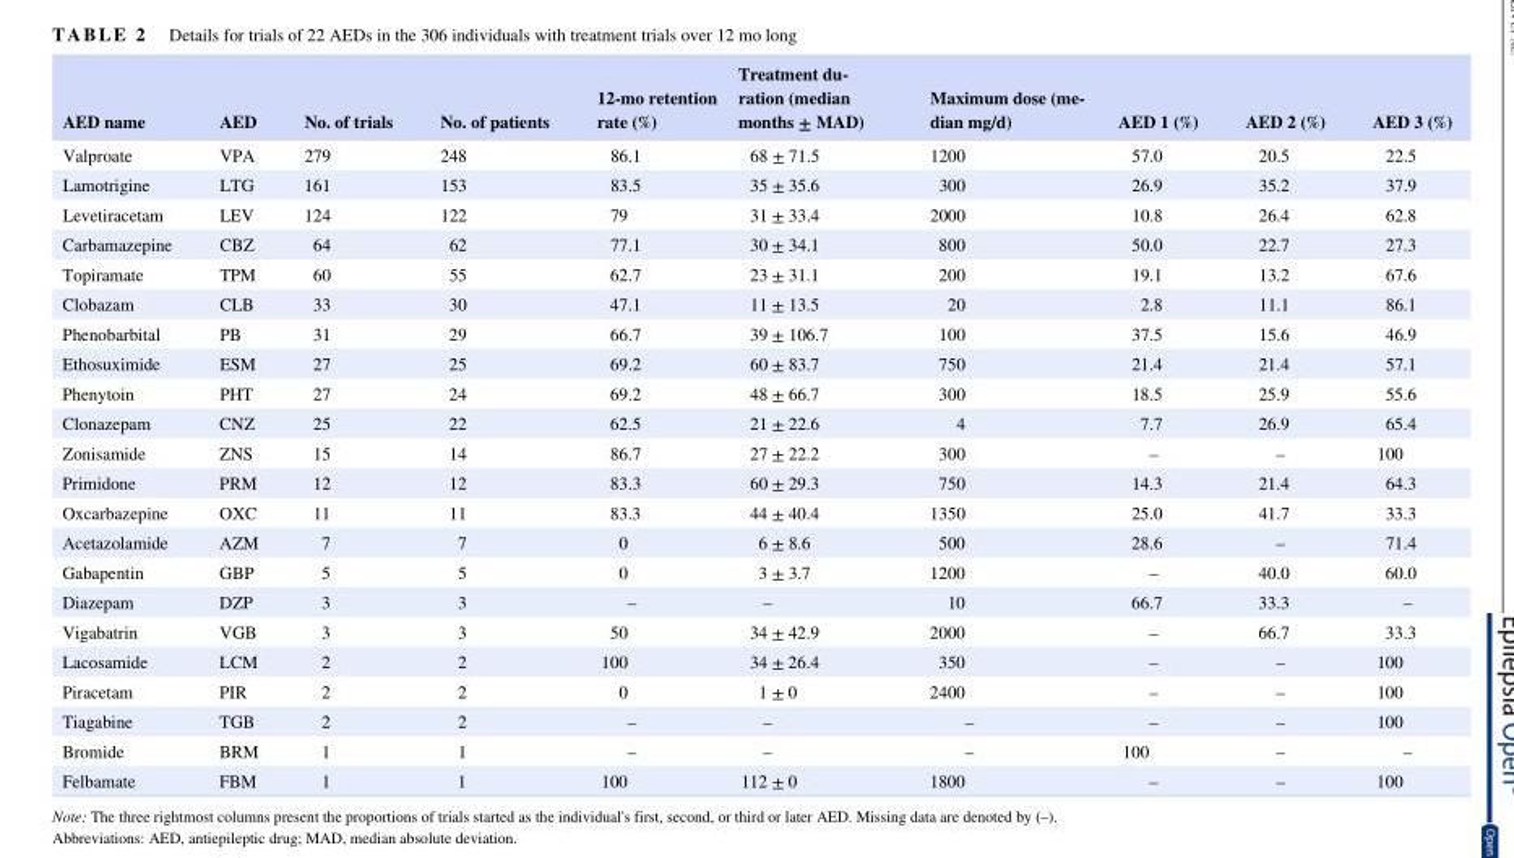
<table><thead><tr><td>AED name</td><td>AED</td><td>No. of trials</td><td>No. of patients</td><td>12‐mo retention rate (%)</td><td>Treatment du- ration (median months ± MAD)</td><td>Maximum dose (me- dian mg/d)</td><td>AED 1 (%)</td><td>AED 2 (%)</td><td>AED 3 (%)</td></tr></thead><tbody><tr><td>Valproate</td><td>VPA</td><td>279</td><td>248</td><td>86.1</td><td>68 ± 71.5</td><td>1200</td><td>57.0</td><td>20.5</td><td>22.5</td></tr><tr><td>Lamotrigine</td><td>LTG</td><td>161</td><td>153</td><td>83.5</td><td>35 ± 35.6</td><td>300</td><td>26.9</td><td>35.2</td><td>37.9</td></tr><tr><td>Levetiracetam</td><td>LEV</td><td>124</td><td>122</td><td>79</td><td>31 ± 33.4</td><td>2000</td><td>10.8</td><td>26.4</td><td>62.8</td></tr><tr><td>Carbamazepine</td><td>CBZ</td><td>64</td><td>62</td><td>77.1</td><td>30 ± 34.1</td><td>800</td><td>50.0</td><td>22.7</td><td>27.3</td></tr><tr><td>Topiramate</td><td>TPM</td><td>60</td><td>55</td><td>62.7</td><td>23 ± 31.1</td><td>200</td><td>19.1</td><td>13.2</td><td>67.6</td></tr><tr><td>Clobazam</td><td>CLB</td><td>33</td><td>30</td><td>47.1</td><td>11 ± 13.5</td><td>20</td><td>2.8</td><td>11.1</td><td>86.1</td></tr><tr><td>Phenobarbital</td><td>PB</td><td>31</td><td>29</td><td>66.7</td><td>39 ± 106.7</td><td>100</td><td>37.5</td><td>15.6</td><td>46.9</td></tr><tr><td>Ethosuximide</td><td>ESM</td><td>27</td><td>25</td><td>69.2</td><td>60 ± 83.7</td><td>750</td><td>21.4</td><td>21.4</td><td>57.1</td></tr><tr><td>Phenytoin</td><td>PHT</td><td>27</td><td>24</td><td>69.2</td><td>48 ± 66.7</td><td>300</td><td>18.5</td><td>25.9</td><td>55.6</td></tr><tr><td>Clonazepam</td><td>CNZ</td><td>25</td><td>22</td><td>62.5</td><td>21 ± 22.6</td><td>4</td><td>7.7</td><td>26.9</td><td>65.4</td></tr><tr><td>Zonisamide</td><td>ZNS</td><td>15</td><td>14</td><td>86.7</td><td>27 ± 22.2</td><td>300</td><td>–</td><td>–</td><td>100</td></tr><tr><td>Primidone</td><td>PRM</td><td>12</td><td>12</td><td>83.3</td><td>60 ± 29.3</td><td>750</td><td>14.3</td><td>21.4</td><td>64.3</td></tr><tr><td>Oxcarbazepine</td><td>OXC</td><td>11</td><td>11</td><td>83.3</td><td>44 ± 40.4</td><td>1350</td><td>25.0</td><td>41.7</td><td>33.3</td></tr><tr><td>Acetazolamide</td><td>AZM</td><td>7</td><td>7</td><td>0</td><td>6 ± 8.6</td><td>500</td><td>28.6</td><td>–</td><td>71.4</td></tr><tr><td>Gabapentin</td><td>GBP</td><td>5</td><td>5</td><td>0</td><td>3 ± 3.7</td><td>1200</td><td>–</td><td>40.0</td><td>60.0</td></tr><tr><td>Diazepam</td><td>DZP</td><td>3</td><td>3</td><td>–</td><td>–</td><td>10</td><td>66.7</td><td>33.3</td><td>–</td></tr><tr><td>Vigabatrin</td><td>VGB</td><td>3</td><td>3</td><td>50</td><td>34 ± 42.9</td><td>2000</td><td>–</td><td>66.7</td><td>33.3</td></tr><tr><td>Lacosamide</td><td>LCM</td><td>2</td><td>2</td><td>100</td><td>34 ± 26.4</td><td>350</td><td>–</td><td>–</td><td>100</td></tr><tr><td>Piracetam</td><td>PIR</td><td>2</td><td>2</td><td>0</td><td>1 ± 0</td><td>2400</td><td>–</td><td>–</td><td>100</td></tr><tr><td>Tiagabine</td><td>TGB</td><td>2</td><td>2</td><td>–</td><td>–</td><td>–</td><td>–</td><td>–</td><td>100</td></tr><tr><td>Bromide</td><td>BRM</td><td>1</td><td>1</td><td>–</td><td>–</td><td>–</td><td>100</td><td>–</td><td>–</td></tr><tr><td>Felbamate</td><td>FBM</td><td>1</td><td>1</td><td>100</td><td>112 ± 0</td><td>1800</td><td>–</td><td>–</td><td>100</td></tr></tbody></table>